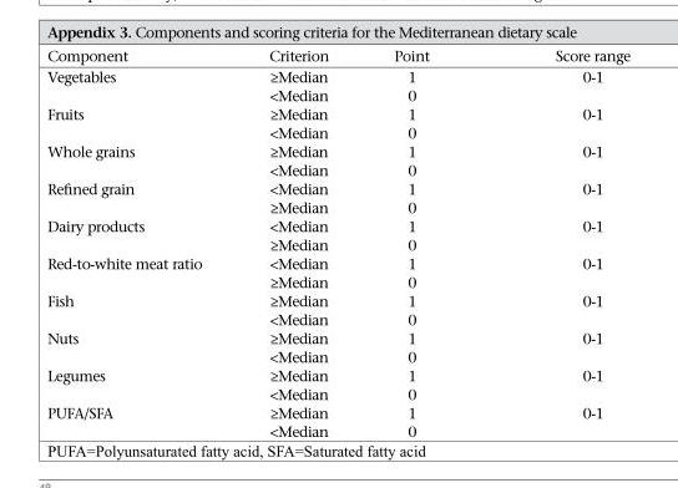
<table><thead><tr><td>Component</td><td>Criterion</td><td>Point</td><td>Score range</td></tr></thead><tbody><tr><td rowspan="2">Vegetables</td><td>≥Median</td><td>1</td><td>0-1</td></tr><tr><td>&lt;Median</td><td>0</td><td></td></tr><tr><td rowspan="2">Fruits</td><td>≥Median</td><td>1</td><td>0-1</td></tr><tr><td>&lt;Median</td><td>0</td><td></td></tr><tr><td rowspan="2">Whole grains</td><td>≥Median</td><td>1</td><td>0-1</td></tr><tr><td>&lt;Median</td><td>0</td><td></td></tr><tr><td rowspan="2">Refined grain</td><td>&lt;Median</td><td>1</td><td>0-1</td></tr><tr><td>≥Median</td><td>0</td><td></td></tr><tr><td rowspan="2">Dairy products</td><td>&lt;Median</td><td>1</td><td>0-1</td></tr><tr><td>≥Median</td><td>0</td><td></td></tr><tr><td rowspan="2">Red-to-white meat ratio</td><td>&lt;Median</td><td>1</td><td>0-1</td></tr><tr><td>≥Median</td><td>0</td><td></td></tr><tr><td rowspan="2">Fish</td><td>≥Median</td><td>1</td><td>0-1</td></tr><tr><td>&lt;Median</td><td>0</td><td></td></tr><tr><td rowspan="2">Nuts</td><td>≥Median</td><td>1</td><td>0-1</td></tr><tr><td>&lt;Median</td><td>0</td><td></td></tr><tr><td rowspan="2">Legumes</td><td>≥Median</td><td>1</td><td>0-1</td></tr><tr><td>&lt;Median</td><td>0</td><td></td></tr><tr><td rowspan="2">PUFA/SFA</td><td>≥Median</td><td>1</td><td>0-1</td></tr><tr><td>&lt;Median</td><td>0</td><td></td></tr></tbody></table>